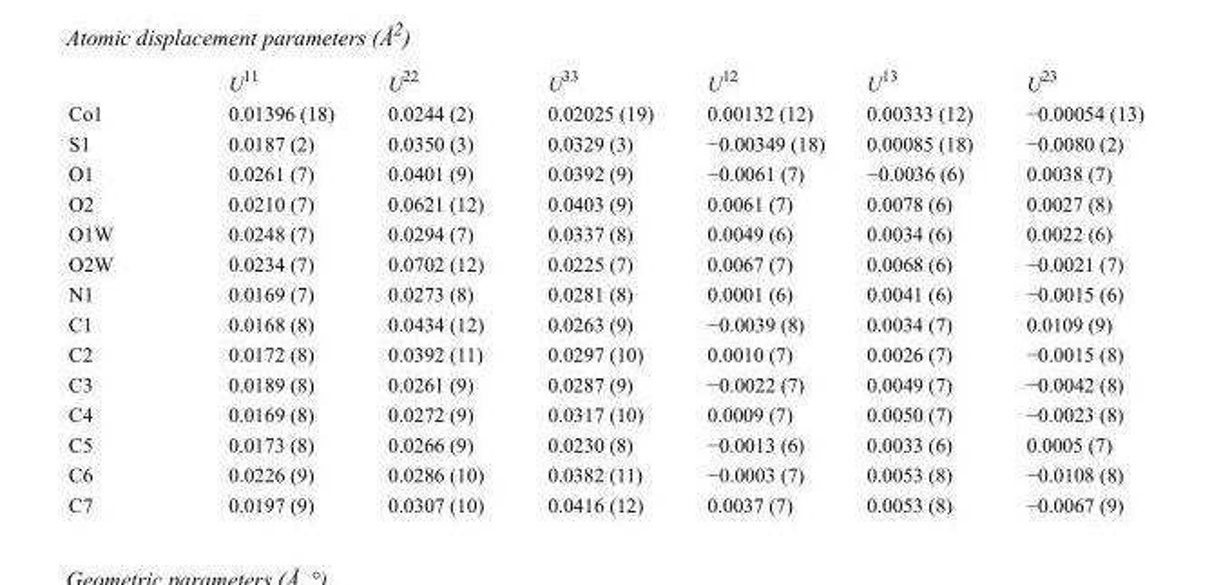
<table><thead><tr><td></td><td>U<sup>11</sup></td><td>U<sup>22</sup></td><td>U<sup>33</sup></td><td>U<sup>12</sup></td><td>U<sup>13</sup></td><td>U<sup>23</sup></td></tr></thead><tbody><tr><td>Co1</td><td>0.01396 (18)</td><td>0.0244 (2)</td><td>0.02025 (19)</td><td>0.00132 (12)</td><td>0.00333 (12)</td><td>−0.00054 (13)</td></tr><tr><td>S1</td><td>0.0187 (2)</td><td>0.0350 (3)</td><td>0.0329 (3)</td><td>−0.00349 (18)</td><td>0.00085 (18)</td><td>−0.0080 (2)</td></tr><tr><td>O1</td><td>0.0261 (7)</td><td>0.0401 (9)</td><td>0.0392 (9)</td><td>−0.0061 (7)</td><td>−0.0036 (6)</td><td>0.0038 (7)</td></tr><tr><td>O2</td><td>0.0210 (7)</td><td>0.0621 (12)</td><td>0.0403 (9)</td><td>0.0061 (7)</td><td>0.0078 (6)</td><td>0.0027 (8)</td></tr><tr><td>O1W</td><td>0.0248 (7)</td><td>0.0294 (7)</td><td>0.0337 (8)</td><td>0.0049 (6)</td><td>0.0034 (6)</td><td>0.0022 (6)</td></tr><tr><td>O2W</td><td>0.0234 (7)</td><td>0.0702 (12)</td><td>0.0225 (7)</td><td>0.0067 (7)</td><td>0.0068 (6)</td><td>−0.0021 (7)</td></tr><tr><td>N1</td><td>0.0169 (7)</td><td>0.0273 (8)</td><td>0.0281 (8)</td><td>0.0001 (6)</td><td>0.0041 (6)</td><td>−0.0015 (6)</td></tr><tr><td>C1</td><td>0.0168 (8)</td><td>0.0434 (12)</td><td>0.0263 (9)</td><td>−0.0039 (8)</td><td>0.0034 (7)</td><td>0.0109 (9)</td></tr><tr><td>C2</td><td>0.0172 (8)</td><td>0.0392 (11)</td><td>0.0297 (10)</td><td>0.0010 (7)</td><td>0.0026 (7)</td><td>−0.0015 (8)</td></tr><tr><td>C3</td><td>0.0189 (8)</td><td>0.0261 (9)</td><td>0.0287 (9)</td><td>−0.0022 (7)</td><td>0.0049 (7)</td><td>−0.0042 (8)</td></tr><tr><td>C4</td><td>0.0169 (8)</td><td>0.0272 (9)</td><td>0.0317 (10)</td><td>0.0009 (7)</td><td>0.0050 (7)</td><td>−0.0023 (8)</td></tr><tr><td>C5</td><td>0.0173 (8)</td><td>0.0266 (9)</td><td>0.0230 (8)</td><td>−0.0013 (6)</td><td>0.0033 (6)</td><td>0.0005 (7)</td></tr><tr><td>C6</td><td>0.0226 (9)</td><td>0.0286 (10)</td><td>0.0382 (11)</td><td>−0.0003 (7)</td><td>0.0053 (8)</td><td>−0.0108 (8)</td></tr><tr><td>C7</td><td>0.0197 (9)</td><td>0.0307 (10)</td><td>0.0416 (12)</td><td>0.0037 (7)</td><td>0.0053 (8)</td><td>−0.0067 (9)</td></tr></tbody></table>